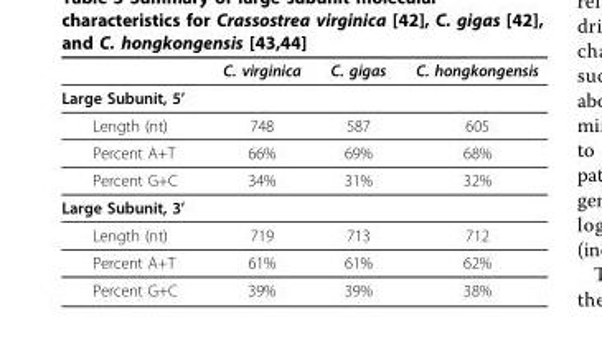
<table><thead><tr><td></td><td>C. virginica</td><td>C. gigas</td><td>C. hongkongensis</td></tr></thead><tbody><tr><td colspan="4">Large Subunit, 5’</td></tr><tr><td>Length (nt)</td><td>748</td><td>587</td><td>605</td></tr><tr><td>Percent A+T</td><td>66%</td><td>69%</td><td>68%</td></tr><tr><td>Percent G+C</td><td>34%</td><td>31%</td><td>32%</td></tr><tr><td colspan="4">Large Subunit, 3’</td></tr><tr><td>Length (nt)</td><td>719</td><td>713</td><td>712</td></tr><tr><td>Percent A+T</td><td>61%</td><td>61%</td><td>62%</td></tr><tr><td>Percent G+C</td><td>39%</td><td>39%</td><td>38%</td></tr></tbody></table>